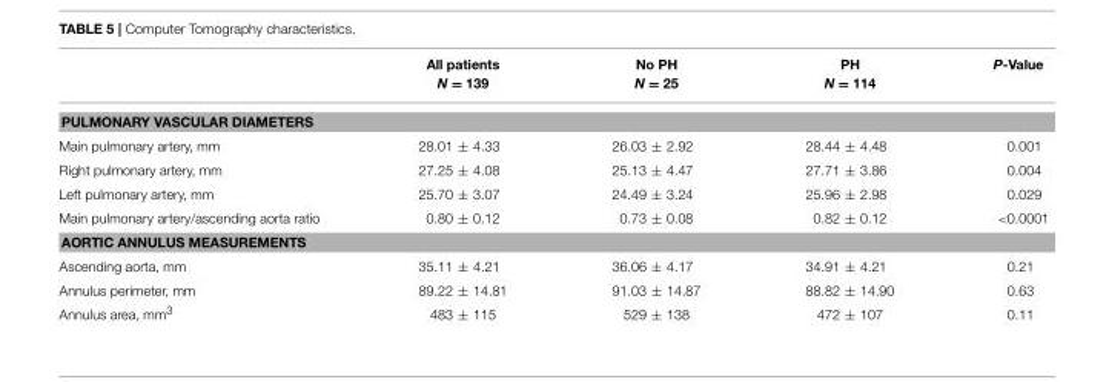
<table><thead><tr><td></td><td>All patients N = 139</td><td>No PH N = 25</td><td>PH N = 114</td><td>P-Value</td></tr></thead><tbody><tr><td colspan="5">PULMONARY VASCULAR DIAMETERS</td></tr><tr><td>Main pulmonary artery, mm</td><td>28.01 ± 4.33</td><td>26.03 ± 2.92</td><td>28.44 ± 4.48</td><td>0.001</td></tr><tr><td>Right pulmonary artery, mm</td><td>27.25 ± 4.08</td><td>25.13 ± 4.47</td><td>27.71 ± 3.86</td><td>0.004</td></tr><tr><td>Left pulmonary artery, mm</td><td>25.70 ± 3.07</td><td>24.49 ± 3.24</td><td>25.96 ± 2.98</td><td>0.029</td></tr><tr><td>Main pulmonary artery/ascending aorta ratio</td><td>0.80 ± 0.12</td><td>0.73 ± 0.08</td><td>0.82 ± 0.12</td><td>&lt;0.0001</td></tr><tr><td colspan="5">AORTIC ANNULUS MEASUREMENTS</td></tr><tr><td>Ascending aorta, mm</td><td>35.11 ± 4.21</td><td>36.06 ± 4.17</td><td>34.91 ± 4.21</td><td>0.21</td></tr><tr><td>Annulus perimeter, mm</td><td>89.22 ± 14.81</td><td>91.03 ± 14.87</td><td>88.82 ± 14.90</td><td>0.63</td></tr><tr><td>Annulus area, mm<sup>3</sup></td><td>483 ± 115</td><td>529 ± 138</td><td>472 ± 107</td><td>0.11</td></tr></tbody></table>